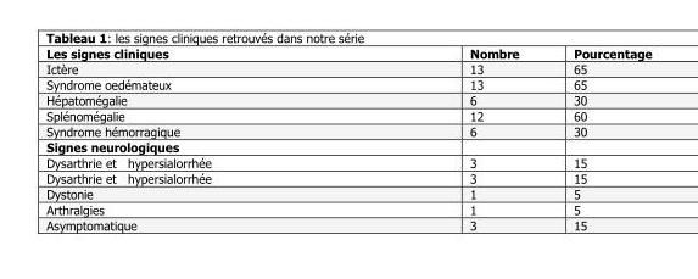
<table><thead><tr><td>Les signes cliniques</td><td>Nombre</td><td>Pourcentage</td></tr></thead><tbody><tr><td>Ictère</td><td>13</td><td>65</td></tr><tr><td>Syndrome oedémateux</td><td>13</td><td>65</td></tr><tr><td>Hépatomégalie</td><td>6</td><td>30</td></tr><tr><td>Splénomégalie</td><td>12</td><td>60</td></tr><tr><td>Syndrome hémorragique</td><td>6</td><td>30</td></tr><tr><td colspan="3">Signes neurologiques</td></tr><tr><td>Dysarthrie et hypersialorrhée</td><td>3</td><td>15</td></tr><tr><td>Dysarthrie et hypersialorrhée</td><td>3</td><td>15</td></tr><tr><td>Dystonie</td><td>1</td><td>5</td></tr><tr><td>Arthralgies</td><td>1</td><td>5</td></tr><tr><td>Asymptomatique</td><td>3</td><td>15</td></tr></tbody></table>